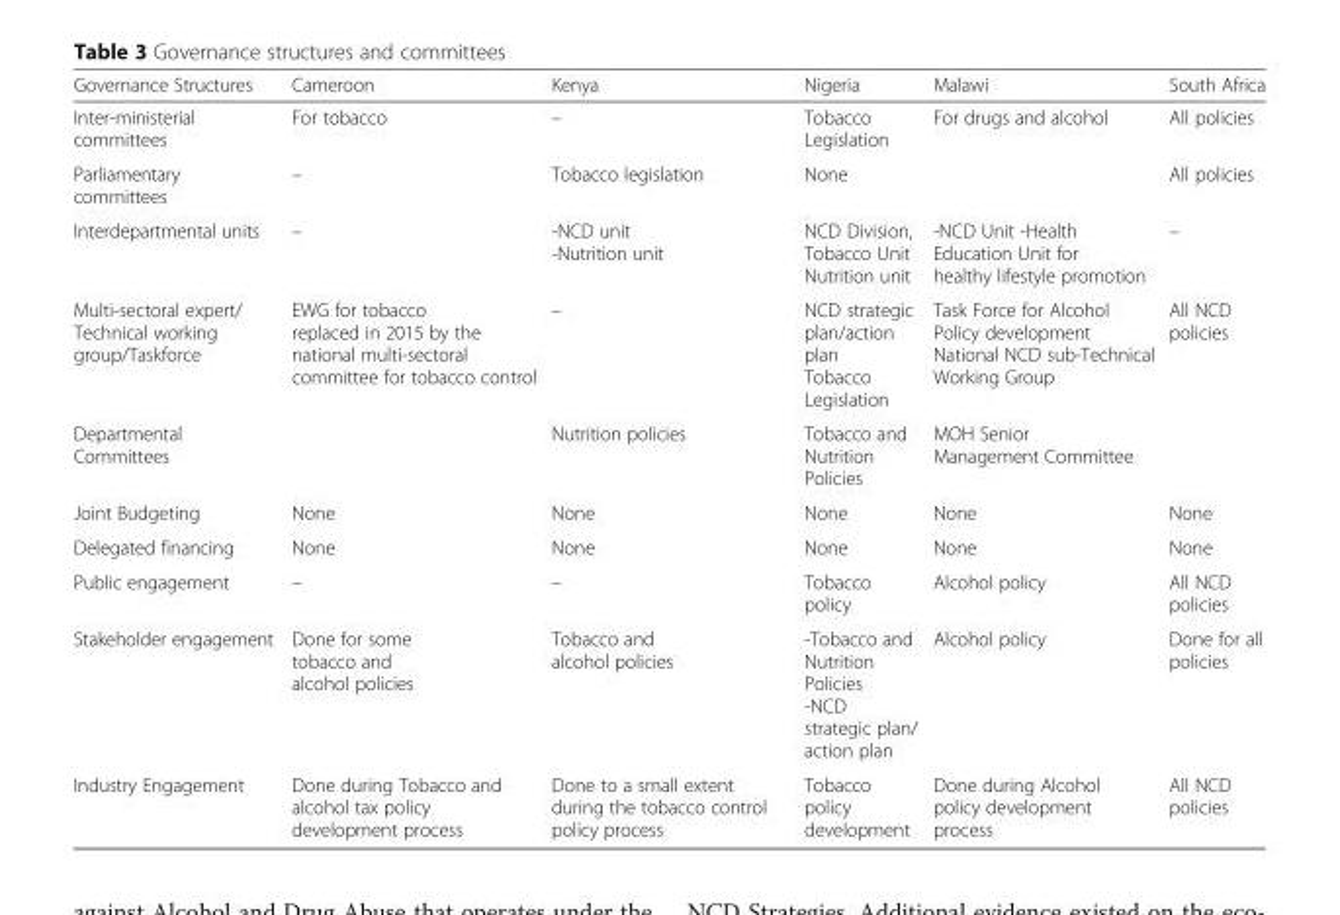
<table><thead><tr><td>Governance Structures</td><td>Cameroon</td><td>Kenya</td><td>Nigeria</td><td>Malawi</td><td>South Africa</td></tr></thead><tbody><tr><td>Inter-ministerial committees</td><td>For tobacco</td><td>–</td><td>Tobacco Legislation</td><td>For drugs and alcohol</td><td>All policies</td></tr><tr><td>Parliamentary committees</td><td>–</td><td>Tobacco legislation</td><td>None</td><td></td><td>All policies</td></tr><tr><td>Interdepartmental units</td><td>–</td><td>-NCD unit -Nutrition unit</td><td>NCD Division, Tobacco Unit Nutrition unit</td><td>-NCD Unit -Health Education Unit for healthy lifestyle promotion</td><td>–</td></tr><tr><td>Multi-sectoral expert/ Technical working group/Taskforce</td><td>EWG for tobacco replaced in 2015 by the national multi-sectoral committee for tobacco control</td><td>–</td><td>NCD strategic plan/action plan Tobacco Legislation</td><td>Task Force for Alcohol Policy development National NCD sub-Technical Working Group</td><td>All NCD policies</td></tr><tr><td>Departmental Committees</td><td></td><td>Nutrition policies</td><td>Tobacco and Nutrition Policies</td><td>MOH Senior Management Committee</td><td></td></tr><tr><td>Joint Budgeting</td><td>None</td><td>None</td><td>None</td><td>None</td><td>None</td></tr><tr><td>Delegated financing</td><td>None</td><td>None</td><td>None</td><td>None</td><td>None</td></tr><tr><td>Public engagement</td><td>–</td><td>–</td><td>Tobacco policy</td><td>Alcohol policy</td><td>All NCD policies</td></tr><tr><td>Stakeholder engagement</td><td>Done for some tobacco and alcohol policies</td><td>Tobacco and alcohol policies</td><td>-Tobacco and Nutrition Policies -NCD strategic plan/ action plan</td><td>Alcohol policy</td><td>Done for all policies</td></tr><tr><td>Industry Engagement</td><td>Done during Tobacco and alcohol tax policy development process</td><td>Done to a small extent during the tobacco control policy process</td><td>Tobacco policy development</td><td>Done during Alcohol policy development process</td><td>All NCD policies</td></tr></tbody></table>